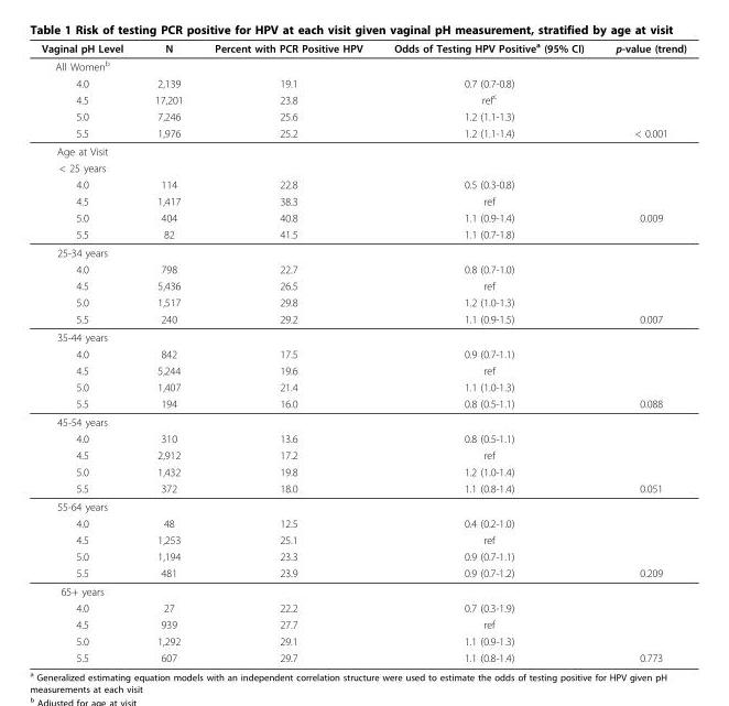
<table><thead><tr><td>Vaginal pH Level</td><td>N</td><td>Percent with PCR Positive HPV</td><td>Odds of Testing HPV Positive<sup>a</sup> (95% CI)</td><td>p-value (trend)</td></tr></thead><tbody><tr><td colspan="5">All Women<sup>b</sup></td></tr><tr><td>4.0</td><td>2,139</td><td>19.1</td><td>0.7 (0.7-0.8)</td><td></td></tr><tr><td>4.5</td><td>17,201</td><td>23.8</td><td>ref<sup>c</sup></td><td></td></tr><tr><td>5.0</td><td>7,246</td><td>25.6</td><td>1.2 (1.1-1.3)</td><td></td></tr><tr><td>5.5</td><td>1,976</td><td>25.2</td><td>1.2 (1.1-1.4)</td><td>&lt; 0.001</td></tr><tr><td colspan="5">Age at Visit</td></tr><tr><td colspan="5">&lt; 25 years</td></tr><tr><td>4.0</td><td>114</td><td>22.8</td><td>0.5 (0.3-0.8)</td><td></td></tr><tr><td>4.5</td><td>1,417</td><td>38.3</td><td>ref</td><td></td></tr><tr><td>5.0</td><td>404</td><td>40.8</td><td>1.1 (0.9-1.4)</td><td>0.009</td></tr><tr><td>5.5</td><td>82</td><td>41.5</td><td>1.1 (0.7-1.8)</td><td></td></tr><tr><td colspan="5">25-34 years</td></tr><tr><td>4.0</td><td>798</td><td>22.7</td><td>0.8 (0.7-1.0)</td><td></td></tr><tr><td>4.5</td><td>5,436</td><td>26.5</td><td>ref</td><td></td></tr><tr><td>5.0</td><td>1,517</td><td>29.8</td><td>1.2 (1.0-1.3)</td><td></td></tr><tr><td>5.5</td><td>240</td><td>29.2</td><td>1.1 (0.9-1.5)</td><td>0.007</td></tr><tr><td colspan="5">35-44 years</td></tr><tr><td>4.0</td><td>842</td><td>17.5</td><td>0.9 (0.7-1.1)</td><td></td></tr><tr><td>4.5</td><td>5,244</td><td>19.6</td><td>ref</td><td></td></tr><tr><td>5.0</td><td>1,407</td><td>21.4</td><td>1.1 (1.0-1.3)</td><td></td></tr><tr><td>5.5</td><td>194</td><td>16.0</td><td>0.8 (0.5-1.1)</td><td>0.088</td></tr><tr><td colspan="5">45-54 years</td></tr><tr><td>4.0</td><td>310</td><td>13.6</td><td>0.8 (0.5-1.1)</td><td></td></tr><tr><td>4.5</td><td>2,912</td><td>17.2</td><td>ref</td><td></td></tr><tr><td>5.0</td><td>1,432</td><td>19.8</td><td>1.2 (1.0-1.4)</td><td></td></tr><tr><td>5.5</td><td>372</td><td>18.0</td><td>1.1 (0.8-1.4)</td><td>0.051</td></tr><tr><td colspan="5">55-64 years</td></tr><tr><td>4.0</td><td>48</td><td>12.5</td><td>0.4 (0.2-1.0)</td><td></td></tr><tr><td>4.5</td><td>1,253</td><td>25.1</td><td>ref</td><td></td></tr><tr><td>5.0</td><td>1,194</td><td>23.3</td><td>0.9 (0.7-1.1)</td><td></td></tr><tr><td>5.5</td><td>481</td><td>23.9</td><td>0.9 (0.7-1.2)</td><td>0.209</td></tr><tr><td colspan="5">65+ years</td></tr><tr><td>4.0</td><td>27</td><td>22.2</td><td>0.7 (0.3-1.9)</td><td></td></tr><tr><td>4.5</td><td>939</td><td>27.7</td><td>ref</td><td></td></tr><tr><td>5.0</td><td>1,292</td><td>29.1</td><td>1.1 (0.9-1.3)</td><td></td></tr><tr><td>5.5</td><td>607</td><td>29.7</td><td>1.1 (0.8-1.4)</td><td>0.773</td></tr></tbody></table>